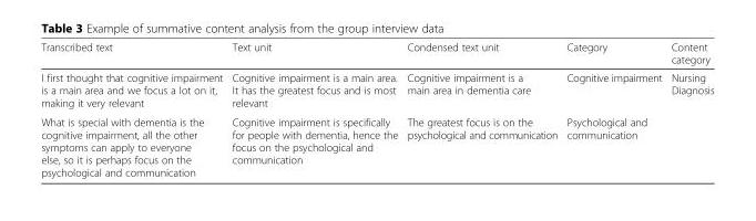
<table><thead><tr><td>Transcribed text</td><td>Text unit</td><td>Condensed text unit</td><td>Category</td><td>Content category</td></tr></thead><tbody><tr><td>I first thought that cognitive impairment is a main area and we focus a lot on it, making it very relevant</td><td>Cognitive impairment is a main area. It has the greatest focus and is most relevant</td><td>Cognitive impairment is a main area in dementia care</td><td>Cognitive impairment</td><td>Nursing Diagnosis</td></tr><tr><td>What is special with dementia is the cognitive impairment, all the other symptoms can apply to everyone else, so it is perhaps focus on the psychological and communication</td><td>Cognitive impairment is specifically for people with dementia, hence the focus on the psychological and communication</td><td>The greatest focus is on the psychological and communication</td><td>Psychological and communication</td><td></td></tr></tbody></table>